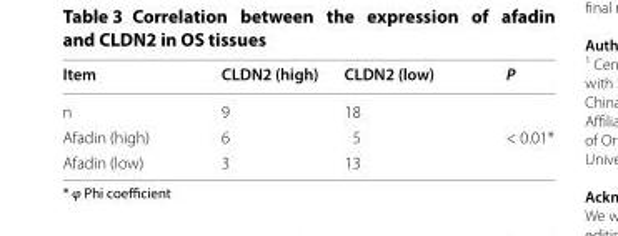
<table><thead><tr><td>Item</td><td>CLDN2 (high)</td><td>CLDN2 (low)</td><td>P</td></tr></thead><tbody><tr><td>n</td><td>9</td><td>18</td><td></td></tr><tr><td>Afadin (high)</td><td>6</td><td>5</td><td>&lt; 0.01*</td></tr><tr><td>Afadin (low)</td><td>3</td><td>13</td><td></td></tr></tbody></table>